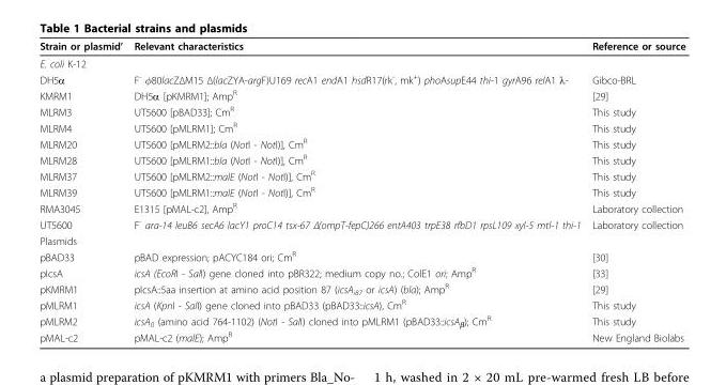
<table><thead><tr><td>Strain or plasmid’</td><td>Relevant characteristics</td><td>Reference or source</td></tr></thead><tbody><tr><td colspan="3">E. coli K-12</td></tr><tr><td>DH5α</td><td>F<sup>-</sup> φ80lacZΔM15 Δ(lacZYA-argF)U169 recA1 endA1 hsdR17(rk<sup>-</sup>, mk<sup>+</sup>) phoAsupE44 thi-1 gyrA96 relA1 λ-</td><td>Gibco-BRL</td></tr><tr><td>KMRM1</td><td>DH5α [pKMRM1]; Amp<sup>R</sup></td><td>[29]</td></tr><tr><td>MLRM3</td><td>UT5600 [pBAD33]; Cm<sup>R</sup></td><td>This study</td></tr><tr><td>MLRM4</td><td>UT5600 [pMLRM1]; Cm<sup>R</sup></td><td>This study</td></tr><tr><td>MLRM20</td><td>UT5600 [pMLRM2::bla (NotI - NotI)], Cm<sup>R</sup></td><td>This study</td></tr><tr><td>MLRM28</td><td>UT5600 [pMLRM1::bla (NotI - NotI)], Cm<sup>R</sup></td><td>This study</td></tr><tr><td>MLRM37</td><td>UT5600 [pMLRM2::malE (NotI - NotI)], Cm<sup>R</sup></td><td>This study</td></tr><tr><td>MLRM39</td><td>UT5600 [pMLRM1::malE (NotI - NotI)], Cm<sup>R</sup></td><td>This study</td></tr><tr><td>RMA3045</td><td>E1315 [pMAL-c2], Amp<sup>R</sup></td><td>Laboratory collection</td></tr><tr><td>UT5600</td><td>F<sup>-</sup> ara-14 leuB6 secA6 lacY1 proC14 tsx-67 Δ(ompT-fepC)266 entA403 trpE38 rfbD1 rpsL109 xyl-5 mtl-1 thi-1</td><td>Laboratory collection</td></tr><tr><td colspan="3">Plasmids</td></tr><tr><td>pBAD33</td><td>pBAD expression; pACYC184 ori; Cm<sup>R</sup></td><td>[30]</td></tr><tr><td>pIcsA</td><td>icsA (EcoRI - SalI) gene cloned into pBR322; medium copy no.; ColE1 ori; Amp<sup>R</sup></td><td>[33]</td></tr><tr><td>pKMRM1</td><td>pIcsA::5aa insertion at amino acid position 87 (icsA<sub>i87</sub> or icsA) (bla); Amp<sup>R</sup></td><td>[29]</td></tr><tr><td>pMLRM1</td><td>icsA (KpnI - SalI) gene cloned into pBAD33 (pBAD33::icsA), Cm<sup>R</sup></td><td>This study</td></tr><tr><td>pMLRM2</td><td>icsA<sub>ß</sub> (amino acid 764-1102) (NotI - SalI) cloned into pMLRM1 (pBAD33::icsA<sub>β</sub>); Cm<sup>R</sup></td><td>This study</td></tr><tr><td>pMAL-c2</td><td>pMAL-c2 (malE); Amp<sup>R</sup></td><td>New England Biolabs</td></tr></tbody></table>